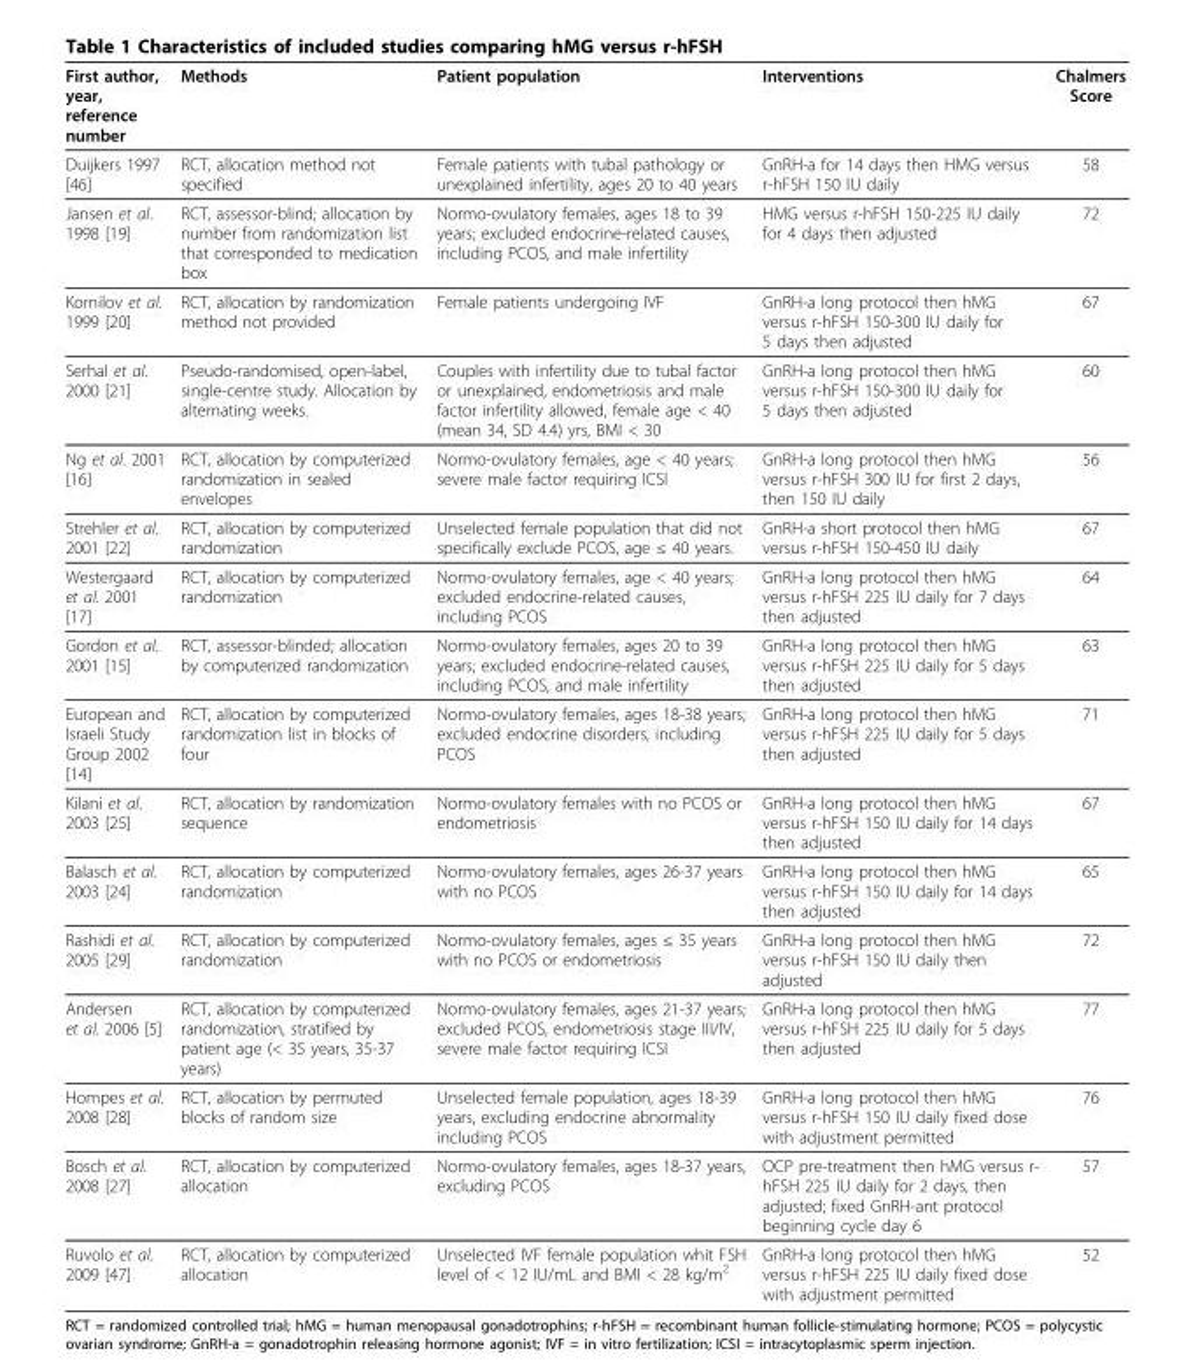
<table><thead><tr><td>First author, year, reference number</td><td>Methods</td><td>Patient population</td><td>Interventions</td><td>Chalmers Score</td></tr></thead><tbody><tr><td>Duijkers 1997 [46]</td><td>RCT, allocation method not specified</td><td>Female patients with tubal pathology or unexplained infertility, ages 20 to 40 years</td><td>GnRH-a for 14 days then HMG versus r-hFSH 150 IU daily</td><td>58</td></tr><tr><td>Jansen et al. 1998 [19]</td><td>RCT, assessor-blind; allocation by number from randomization list that corresponded to medication box</td><td>Normo-ovulatory females, ages 18 to 39 years; excluded endocrine-related causes, including PCOS, and male infertility</td><td>HMG versus r-hFSH 150-225 IU daily for 4 days then adjusted</td><td>72</td></tr><tr><td>Kornilov et al. 1999 [20]</td><td>RCT, allocation by randomization method not provided</td><td>Female patients undergoing IVF</td><td>GnRH-a long protocol then hMG versus r-hFSH 150-300 IU daily for 5 days then adjusted</td><td>67</td></tr><tr><td>Serhal et al. 2000 [21]</td><td>Pseudo-randomised, open-label, single-centre study. Allocation by alternating weeks.</td><td>Couples with infertility due to tubal factor or unexplained, endometriosis and male factor infertility allowed, female age &lt; 40 (mean 34, SD 4.4) yrs, BMI &lt; 30</td><td>GnRH-a long protocol then hMG versus r-hFSH 150-300 IU daily for 5 days then adjusted</td><td>60</td></tr><tr><td>Ng et al. 2001 [16]</td><td>RCT, allocation by computerized randomization in sealed envelopes</td><td>Normo-ovulatory females, age &lt; 40 years; severe male factor requiring ICSI</td><td>GnRH-a long protocol then hMG versus r-hFSH 300 IU for first 2 days, then 150 IU daily</td><td>56</td></tr><tr><td>Strehler et al. 2001 [22]</td><td>RCT, allocation by computerized randomization</td><td>Unselected female population that did not specifically exclude PCOS, age ≤ 40 years.</td><td>GnRH-a short protocol then hMG versus r-hFSH 150-450 IU daily</td><td>67</td></tr><tr><td>Westergaard et al. 2001 [17]</td><td>RCT, allocation by computerized randomization</td><td>Normo-ovulatory females, age &lt; 40 years; excluded endocrine-related causes, including PCOS</td><td>GnRH-a long protocol then hMG versus r-hFSH 225 IU daily for 7 days then adjusted</td><td>64</td></tr><tr><td>Gordon et al. 2001 [15]</td><td>RCT, assessor-blinded; allocation by computerized randomization</td><td>Normo-ovulatory females, ages 20 to 39 years; excluded endocrine-related causes, including PCOS, and male infertility</td><td>GnRH-a long protocol then hMG versus r-hFSH 225 IU daily for 5 days then adjusted</td><td>63</td></tr><tr><td>European and Israeli Study Group 2002 [14]</td><td>RCT, allocation by computerized randomization list in blocks of four</td><td>Normo-ovulatory females, ages 18-38 years; excluded endocrine disorders, including PCOS</td><td>GnRH-a long protocol then hMG versus r-hFSH 225 IU daily for 5 days then adjusted</td><td>71</td></tr><tr><td>Kilani et al. 2003 [25]</td><td>RCT, allocation by randomization sequence</td><td>Normo-ovulatory females with no PCOS or endometriosis</td><td>GnRH-a long protocol then hMG versus r-hFSH 150 IU daily for 14 days then adjusted</td><td>67</td></tr><tr><td>Balasch et al. 2003 [24]</td><td>RCT, allocation by computerized randomization</td><td>Normo-ovulatory females, ages 26-37 years with no PCOS</td><td>GnRH-a long protocol then hMG versus r-hFSH 150 IU daily for 14 days then adjusted</td><td>65</td></tr><tr><td>Rashidi et al. 2005 [29]</td><td>RCT, allocation by computerized randomization</td><td>Normo-ovulatory females, ages ≤ 35 years with no PCOS or endometriosis</td><td>GnRH-a long protocol then hMG versus r-hFSH 150 IU daily then adjusted</td><td>72</td></tr><tr><td>Andersen et al. 2006 [5]</td><td>RCT, allocation by computerized randomization, stratified by patient age (&lt; 35 years, 35-37 years)</td><td>Normo-ovulatory females, ages 21-37 years; excluded PCOS, endometriosis stage III/IV, severe male factor requiring ICSI</td><td>GnRH-a long protocol then hMG versus r-hFSH 225 IU daily for 5 days then adjusted</td><td>77</td></tr><tr><td>Hompes et al. 2008 [28]</td><td>RCT, allocation by permuted blocks of random size</td><td>Unselected female population, ages 18-39 years, excluding endocrine abnormality including PCOS</td><td>GnRH-a long protocol then hMG versus r-hFSH 150 IU daily fixed dose with adjustment permitted</td><td>76</td></tr><tr><td>Bosch et al. 2008 [27]</td><td>RCT, allocation by computerized allocation</td><td>Normo-ovulatory females, ages 18-37 years, excluding PCOS</td><td>OCP pre-treatment then hMG versus r- hFSH 225 IU daily for 2 days, then adjusted; fixed GnRH-ant protocol beginning cycle day 6</td><td>57</td></tr><tr><td>Ruvolo et al. 2009 [47]</td><td>RCT, allocation by computerized allocation</td><td>Unselected IVF female population whit FSH level of &lt; 12 IU/mL and BMI &lt; 28 kg/m2</td><td>GnRH-a long protocol then hMG versus r-hFSH 225 IU daily fixed dose with adjustment permitted</td><td>52</td></tr></tbody></table>